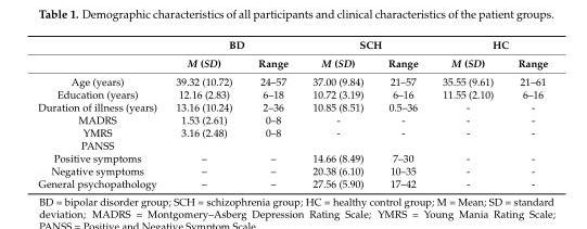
<table><thead><tr><td rowspan="2"></td><td colspan="2">BD</td><td colspan="2">SCH</td><td colspan="2">HC</td></tr><tr><td>M (SD)</td><td>Range</td><td>M (SD)</td><td>Range</td><td>M (SD)</td><td>Range</td></tr></thead><tbody><tr><td>Age (years)</td><td>39.32 (10.72)</td><td>24–57</td><td>37.00 (9.84)</td><td>21–57</td><td>35.55 (9.61)</td><td>21–61</td></tr><tr><td>Education (years)</td><td>12.16 (2.83)</td><td>6–18</td><td>10.72 (3.19)</td><td>6–16</td><td>11.55 (2.10)</td><td>6–16</td></tr><tr><td>Duration of illness (years)</td><td>13.16 (10.24)</td><td>2–36</td><td>10.85 (8.51)</td><td>0.5–36</td><td>-</td><td>-</td></tr><tr><td>MADRS</td><td>1.53 (2.61)</td><td>0–8</td><td>-</td><td>-</td><td>-</td><td>-</td></tr><tr><td>YMRS</td><td>3.16 (2.48)</td><td>0–8</td><td>-</td><td>-</td><td>-</td><td>-</td></tr><tr><td colspan="7">PANSS</td></tr><tr><td>Positive symptoms</td><td>–</td><td>–</td><td>14.66 (8.49)</td><td>7–30</td><td>-</td><td>-</td></tr><tr><td>Negative symptoms</td><td>–</td><td>–</td><td>20.38 (6.10)</td><td>10–35</td><td>-</td><td>-</td></tr><tr><td>General psychopathology</td><td>–</td><td>–</td><td>27.56 (5.90)</td><td>17–42</td><td>-</td><td>-</td></tr></tbody></table>